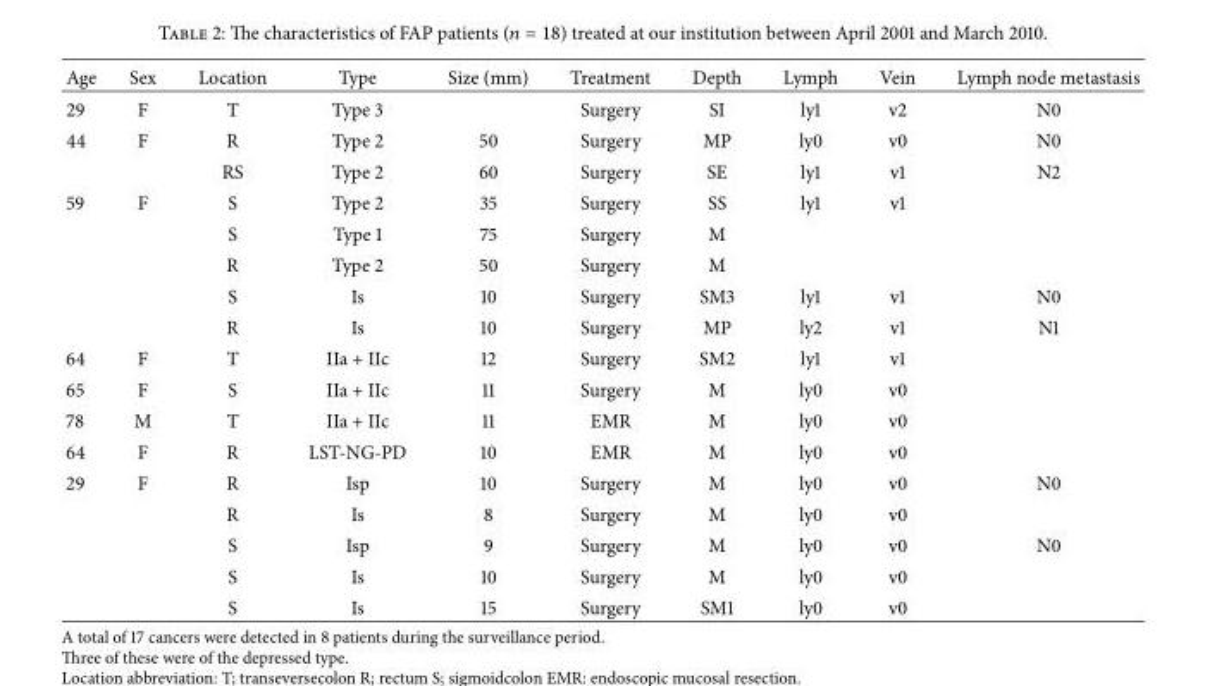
<table><thead><tr><td>Age</td><td>Sex</td><td>Location</td><td>Type</td><td>Size (mm)</td><td>Treatment</td><td>Depth</td><td>Lymph</td><td>Vein</td><td>Lymph node metastasis</td></tr></thead><tbody><tr><td>29</td><td>F</td><td>T</td><td>Type 3</td><td></td><td>Surgery</td><td>SI</td><td>ly1</td><td>v2</td><td>N0</td></tr><tr><td rowspan="2">44</td><td>F</td><td>R</td><td>Type 2</td><td>50</td><td>Surgery</td><td>MP</td><td>ly0</td><td>v0</td><td>N0</td></tr><tr><td></td><td>RS</td><td>Type 2</td><td>60</td><td>Surgery</td><td>SE</td><td>ly1</td><td>v1</td><td>N2</td></tr><tr><td rowspan="5">59</td><td>F</td><td>S</td><td>Type 2</td><td>35</td><td>Surgery</td><td>SS</td><td>ly1</td><td>v1</td><td></td></tr><tr><td></td><td>S</td><td>Type 1</td><td>75</td><td>Surgery</td><td>M</td><td></td><td></td><td></td></tr><tr><td></td><td>R</td><td>Type 2</td><td>50</td><td>Surgery</td><td>M</td><td></td><td></td><td></td></tr><tr><td></td><td>S</td><td>Is</td><td>10</td><td>Surgery</td><td>SM3</td><td>ly1</td><td>v1</td><td>N0</td></tr><tr><td></td><td>R</td><td>Is</td><td>10</td><td>Surgery</td><td>MP</td><td>ly2</td><td>v1</td><td>N1</td></tr><tr><td>64</td><td>F</td><td>T</td><td>IIa + IIc</td><td>12</td><td>Surgery</td><td>SM2</td><td>ly1</td><td>v1</td><td></td></tr><tr><td>65</td><td>F</td><td>S</td><td>IIa + IIc</td><td>11</td><td>Surgery</td><td>M</td><td>ly0</td><td>v0</td><td></td></tr><tr><td>78</td><td>M</td><td>T</td><td>IIa + IIc</td><td>11</td><td>EMR</td><td>M</td><td>ly0</td><td>v0</td><td></td></tr><tr><td>64</td><td>F</td><td>R</td><td>LST-NG-PD</td><td>10</td><td>EMR</td><td>M</td><td>ly0</td><td>v0</td><td></td></tr><tr><td rowspan="5">29</td><td>F</td><td>R</td><td>Isp</td><td>10</td><td>Surgery</td><td>M</td><td>ly0</td><td>v0</td><td>N0</td></tr><tr><td></td><td>R</td><td>Is</td><td>8</td><td>Surgery</td><td>M</td><td>ly0</td><td>v0</td><td></td></tr><tr><td></td><td>S</td><td>Isp</td><td>9</td><td>Surgery</td><td>M</td><td>ly0</td><td>v0</td><td>N0</td></tr><tr><td></td><td>S</td><td>Is</td><td>10</td><td>Surgery</td><td>M</td><td>ly0</td><td>v0</td><td></td></tr><tr><td></td><td>S</td><td>Is</td><td>15</td><td>Surgery</td><td>SM1</td><td>ly0</td><td>v0</td><td></td></tr></tbody></table>